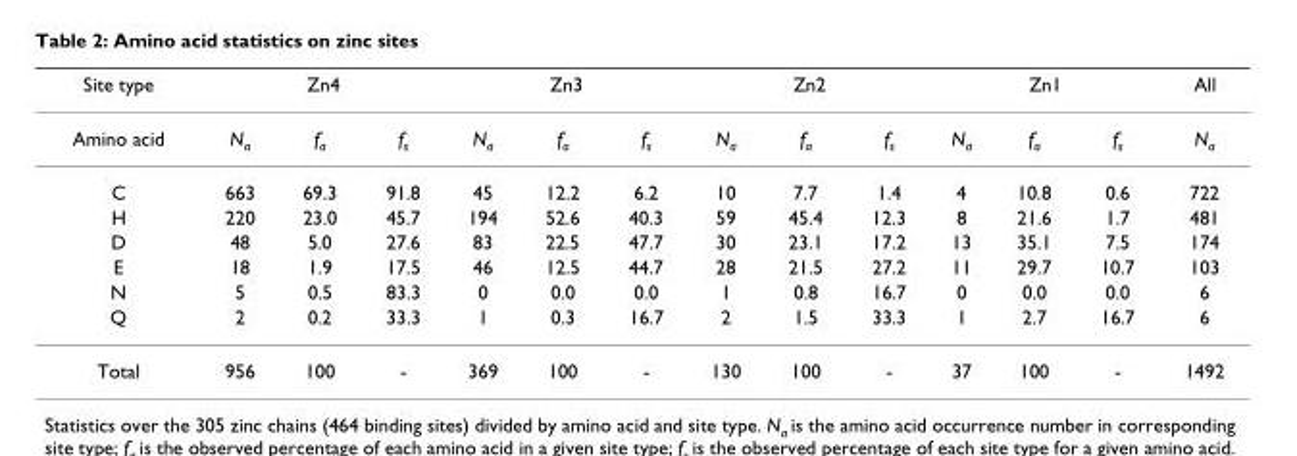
<table><thead><tr><td rowspan="2">Site type Amino acid</td><td colspan="3">Zn4</td><td colspan="3">Zn3</td><td colspan="3">Zn2</td><td colspan="3">Zn1</td><td rowspan="2">All N<sub>a</sub></td></tr><tr><td>N<sub>a</sub></td><td>f<sub>a</sub></td><td>f<sub>s</sub></td><td>N<sub>a</sub></td><td>f<sub>a</sub></td><td>f<sub>s</sub></td><td>N<sub>a</sub></td><td>f<sub>a</sub></td><td>f<sub>s</sub></td><td>N<sub>a</sub></td><td>f<sub>a</sub></td><td>f<sub>s</sub></td></tr></thead><tbody><tr><td>C</td><td>663</td><td>69.3</td><td>91.8</td><td>45</td><td>12.2</td><td>6.2</td><td>10</td><td>7.7</td><td>1.4</td><td>4</td><td>10.8</td><td>0.6</td><td>722</td></tr><tr><td>H</td><td>220</td><td>23.0</td><td>45.7</td><td>194</td><td>52.6</td><td>40.3</td><td>59</td><td>45.4</td><td>12.3</td><td>8</td><td>21.6</td><td>1.7</td><td>481</td></tr><tr><td>D</td><td>48</td><td>5.0</td><td>27.6</td><td>83</td><td>22.5</td><td>47.7</td><td>30</td><td>23.1</td><td>17.2</td><td>13</td><td>35.1</td><td>7.5</td><td>174</td></tr><tr><td>E</td><td>18</td><td>1.9</td><td>17.5</td><td>46</td><td>12.5</td><td>44.7</td><td>28</td><td>21.5</td><td>27.2</td><td>11</td><td>29.7</td><td>10.7</td><td>103</td></tr><tr><td>N</td><td>5</td><td>0.5</td><td>83.3</td><td>0</td><td>0.0</td><td>0.0</td><td>1</td><td>0.8</td><td>16.7</td><td>0</td><td>0.0</td><td>0.0</td><td>6</td></tr><tr><td>Q</td><td>2</td><td>0.2</td><td>33.3</td><td>1</td><td>0.3</td><td>16.7</td><td>2</td><td>1.5</td><td>33.3</td><td>1</td><td>2.7</td><td>16.7</td><td>6</td></tr><tr><td>Total</td><td>956</td><td>100</td><td>-</td><td>369</td><td>100</td><td>-</td><td>130</td><td>100</td><td>-</td><td>37</td><td>100</td><td>-</td><td>1492</td></tr></tbody></table>